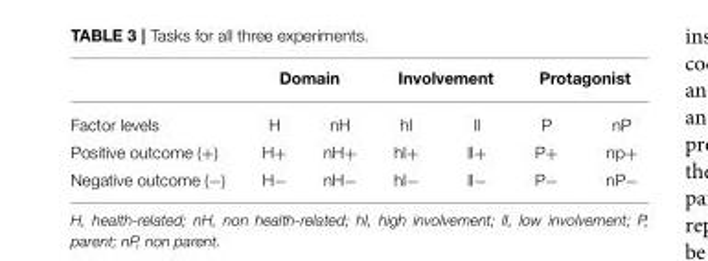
<table><thead><tr><td rowspan="2">Factor levels</td><td colspan="2">Domain</td><td colspan="2">Involvement</td><td colspan="2">Protagonist</td></tr><tr><td>H</td><td>nH</td><td>hI</td><td>lI</td><td>P</td><td>nP</td></tr></thead><tbody><tr><td>Positive outcome (+)</td><td>H+</td><td>nH+</td><td>hI+</td><td>lI+</td><td>P+</td><td>np+</td></tr><tr><td>Negative outcome (−)</td><td>H−</td><td>nH−</td><td>hI−</td><td>lI−</td><td>P−</td><td>nP−</td></tr></tbody></table>